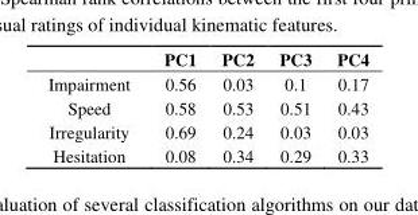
<table><thead><tr><td></td><td>PC1</td><td>PC2</td><td>PC3</td><td>PC4</td></tr></thead><tbody><tr><td>Impairment</td><td>0.56</td><td>0.03</td><td>0.1</td><td>0.17</td></tr><tr><td>Speed</td><td>0.58</td><td>0.53</td><td>0.51</td><td>0.43</td></tr><tr><td>Irregularity</td><td>0.69</td><td>0.24</td><td>0.03</td><td>0.03</td></tr><tr><td>Hesitation</td><td>0.08</td><td>0.34</td><td>0.29</td><td>0.33</td></tr></tbody></table>